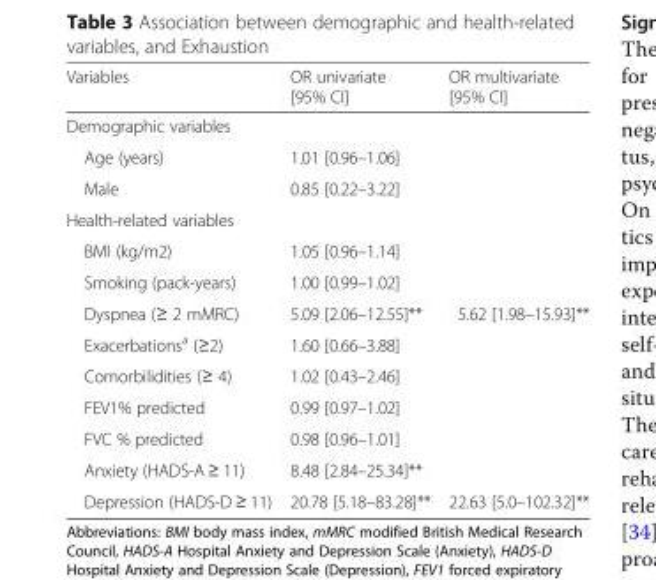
<table><thead><tr><td>Variables</td><td>OR univariate [95% CI]</td><td>OR multivariate [95% CI]</td></tr></thead><tbody><tr><td colspan="3">Demographic variables</td></tr><tr><td>Age (years)</td><td>1.01 [0.96–1.06]</td><td></td></tr><tr><td>Male</td><td>0.85 [0.22–3.22]</td><td></td></tr><tr><td colspan="3">Health-related variables</td></tr><tr><td>BMI (kg/m2)</td><td>1.05 [0.96–1.14]</td><td></td></tr><tr><td>Smoking (pack-years)</td><td>1.00 [0.99–1.02]</td><td></td></tr><tr><td>Dyspnea (≥ 2 mMRC)</td><td>5.09 [2.06–12.55]**</td><td>5.62 [1.98–15.93]**</td></tr><tr><td>Exacerbations<sup>a</sup> (≥2)</td><td>1.60 [0.66–3.88]</td><td></td></tr><tr><td>Comorbilidities (≥ 4)</td><td>1.02 [0.43–2.46]</td><td></td></tr><tr><td>FEV1% predicted</td><td>0.99 [0.97–1.02]</td><td></td></tr><tr><td>FVC % predicted</td><td>0.98 [0.96–1.01]</td><td></td></tr><tr><td>Anxiety (HADS-A ≥ 11)</td><td>8.48 [2.84–25.34]**</td><td></td></tr><tr><td>Depression (HADS-D ≥ 11)</td><td>20.78 [5.18–83.28]**</td><td>22.63 [5.0–102.32]**</td></tr></tbody></table>